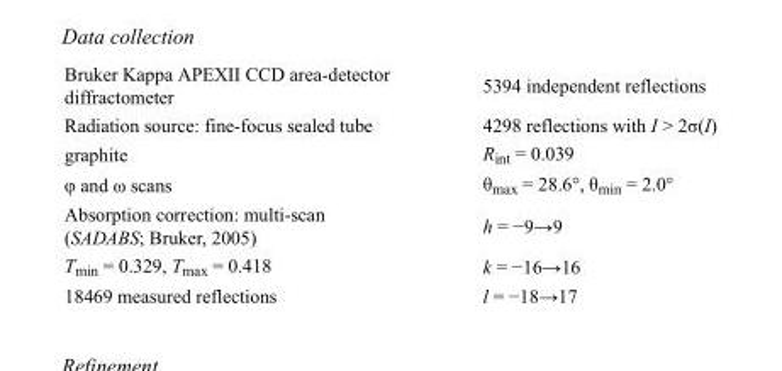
<table><tbody><tr><td>Bruker Kappa APEXII CCD area-detector diffractometer</td><td>5394 independent reflections</td></tr><tr><td>Radiation source: fine-focus sealed tube</td><td>4298 reflections with I &gt; 2σ(I)</td></tr><tr><td>graphite</td><td>R<sub>int</sub> = 0.039</td></tr><tr><td>φ and ω scans</td><td>θ<sub>max</sub> = 28.6°, θ<sub>min</sub> = 2.0°</td></tr><tr><td>Absorption correction: multi-scan (SADABS; Bruker, 2005)</td><td>h = −9→9</td></tr><tr><td>T<sub>min</sub> = 0.329, T<sub>max</sub> = 0.418</td><td>k = −16→16</td></tr><tr><td>18469 measured reflections</td><td>l = −18→17</td></tr></tbody></table>